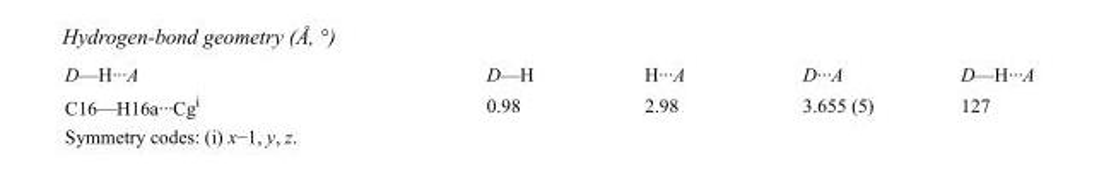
<table><tbody><tr><td>D—H···A</td><td>D—H</td><td>H···A</td><td>D···A</td><td>D—H···A</td></tr><tr><td>C16—H16a···Cg<sup>i</sup></td><td>0.98</td><td>2.98</td><td>3.655 (5)</td><td>127</td></tr></tbody></table>